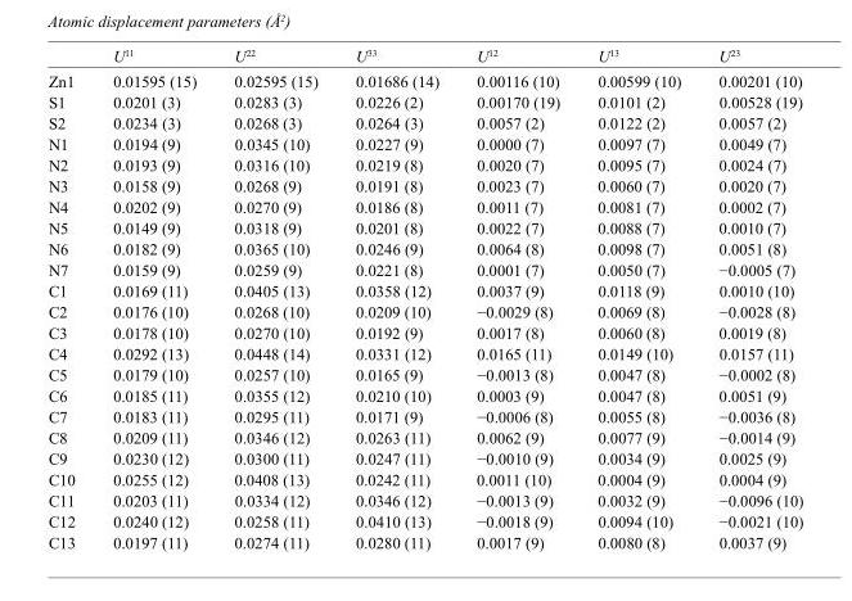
<table><thead><tr><td></td><td>U<sup>11</sup></td><td>U<sup>22</sup></td><td>U<sup>33</sup></td><td>U<sup>12</sup></td><td>U<sup>13</sup></td><td>U<sup>23</sup></td></tr></thead><tbody><tr><td>Zn1</td><td>0.01595 (15)</td><td>0.02595 (15)</td><td>0.01686 (14)</td><td>0.00116 (10)</td><td>0.00599 (10)</td><td>0.00201 (10)</td></tr><tr><td>S1</td><td>0.0201 (3)</td><td>0.0283 (3)</td><td>0.0226 (2)</td><td>0.00170 (19)</td><td>0.0101 (2)</td><td>0.00528 (19)</td></tr><tr><td>S2</td><td>0.0234 (3)</td><td>0.0268 (3)</td><td>0.0264 (3)</td><td>0.0057 (2)</td><td>0.0122 (2)</td><td>0.0057 (2)</td></tr><tr><td>N1</td><td>0.0194 (9)</td><td>0.0345 (10)</td><td>0.0227 (9)</td><td>0.0000 (7)</td><td>0.0097 (7)</td><td>0.0049 (7)</td></tr><tr><td>N2</td><td>0.0193 (9)</td><td>0.0316 (10)</td><td>0.0219 (8)</td><td>0.0020 (7)</td><td>0.0095 (7)</td><td>0.0024 (7)</td></tr><tr><td>N3</td><td>0.0158 (9)</td><td>0.0268 (9)</td><td>0.0191 (8)</td><td>0.0023 (7)</td><td>0.0060 (7)</td><td>0.0020 (7)</td></tr><tr><td>N4</td><td>0.0202 (9)</td><td>0.0270 (9)</td><td>0.0186 (8)</td><td>0.0011 (7)</td><td>0.0081 (7)</td><td>0.0002 (7)</td></tr><tr><td>N5</td><td>0.0149 (9)</td><td>0.0318 (9)</td><td>0.0201 (8)</td><td>0.0022 (7)</td><td>0.0088 (7)</td><td>0.0010 (7)</td></tr><tr><td>N6</td><td>0.0182 (9)</td><td>0.0365 (10)</td><td>0.0246 (9)</td><td>0.0064 (8)</td><td>0.0098 (7)</td><td>0.0051 (8)</td></tr><tr><td>N7</td><td>0.0159 (9)</td><td>0.0259 (9)</td><td>0.0221 (8)</td><td>0.0001 (7)</td><td>0.0050 (7)</td><td>−0.0005 (7)</td></tr><tr><td>C1</td><td>0.0169 (11)</td><td>0.0405 (13)</td><td>0.0358 (12)</td><td>0.0037 (9)</td><td>0.0118 (9)</td><td>0.0010 (10)</td></tr><tr><td>C2</td><td>0.0176 (10)</td><td>0.0268 (10)</td><td>0.0209 (10)</td><td>−0.0029 (8)</td><td>0.0069 (8)</td><td>−0.0028 (8)</td></tr><tr><td>C3</td><td>0.0178 (10)</td><td>0.0270 (10)</td><td>0.0192 (9)</td><td>0.0017 (8)</td><td>0.0060 (8)</td><td>0.0019 (8)</td></tr><tr><td>C4</td><td>0.0292 (13)</td><td>0.0448 (14)</td><td>0.0331 (12)</td><td>0.0165 (11)</td><td>0.0149 (10)</td><td>0.0157 (11)</td></tr><tr><td>C5</td><td>0.0179 (10)</td><td>0.0257 (10)</td><td>0.0165 (9)</td><td>−0.0013 (8)</td><td>0.0047 (8)</td><td>−0.0002 (8)</td></tr><tr><td>C6</td><td>0.0185 (11)</td><td>0.0355 (12)</td><td>0.0210 (10)</td><td>0.0003 (9)</td><td>0.0047 (8)</td><td>0.0051 (9)</td></tr><tr><td>C7</td><td>0.0183 (11)</td><td>0.0295 (11)</td><td>0.0171 (9)</td><td>−0.0006 (8)</td><td>0.0055 (8)</td><td>−0.0036 (8)</td></tr><tr><td>C8</td><td>0.0209 (11)</td><td>0.0346 (12)</td><td>0.0263 (11)</td><td>0.0062 (9)</td><td>0.0077 (9)</td><td>−0.0014 (9)</td></tr><tr><td>C9</td><td>0.0230 (12)</td><td>0.0300 (11)</td><td>0.0247 (11)</td><td>−0.0010 (9)</td><td>0.0034 (9)</td><td>0.0025 (9)</td></tr><tr><td>C10</td><td>0.0255 (12)</td><td>0.0408 (13)</td><td>0.0242 (11)</td><td>0.0011 (10)</td><td>0.0004 (9)</td><td>0.0004 (9)</td></tr><tr><td>C11</td><td>0.0203 (11)</td><td>0.0334 (12)</td><td>0.0346 (12)</td><td>−0.0013 (9)</td><td>0.0032 (9)</td><td>−0.0096 (10)</td></tr><tr><td>C12</td><td>0.0240 (12)</td><td>0.0258 (11)</td><td>0.0410 (13)</td><td>−0.0018 (9)</td><td>0.0094 (10)</td><td>−0.0021 (10)</td></tr><tr><td>C13</td><td>0.0197 (11)</td><td>0.0274 (11)</td><td>0.0280 (11)</td><td>0.0017 (9)</td><td>0.0080 (8)</td><td>0.0037 (9)</td></tr></tbody></table>